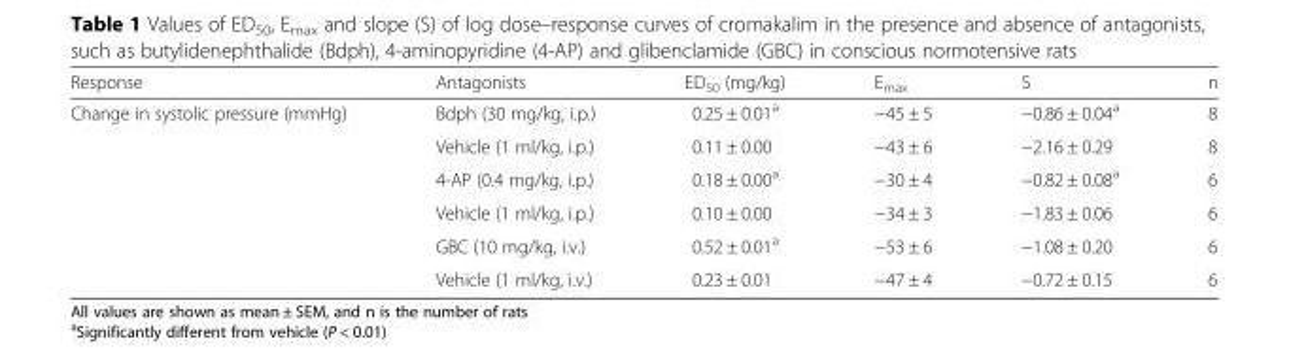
<table><thead><tr><td>Response</td><td>Antagonists</td><td>ED<sub>50</sub> (mg/kg)</td><td>E<sub>max</sub></td><td>S</td><td>n</td></tr></thead><tbody><tr><td rowspan="6">Change in systolic pressure (mmHg)</td><td>Bdph (30 mg/kg, i.p.)</td><td>0.25 ± 0.01<sup>a</sup></td><td>−45 ± 5</td><td>−0.86 ± 0.04<sup>a</sup></td><td>8</td></tr><tr><td>Vehicle (1 ml/kg, i.p.)</td><td>0.11 ± 0.00</td><td>−43 ± 6</td><td>−2.16 ± 0.29</td><td>8</td></tr><tr><td>4-AP (0.4 mg/kg, i.p.)</td><td>0.18 ± 0.00<sup>a</sup></td><td>−30 ± 4</td><td>−0.82 ± 0.08<sup>a</sup></td><td>6</td></tr><tr><td>Vehicle (1 ml/kg, i.p.)</td><td>0.10 ± 0.00</td><td>−34 ± 3</td><td>−1.83 ± 0.06</td><td>6</td></tr><tr><td>GBC (10 mg/kg, i.v.)</td><td>0.52 ± 0.01<sup>a</sup></td><td>−53 ± 6</td><td>−1.08 ± 0.20</td><td>6</td></tr><tr><td>Vehicle (1 ml/kg, i.v.)</td><td>0.23 ± 0.01</td><td>−47 ± 4</td><td>−0.72 ± 0.15</td><td>6</td></tr></tbody></table>